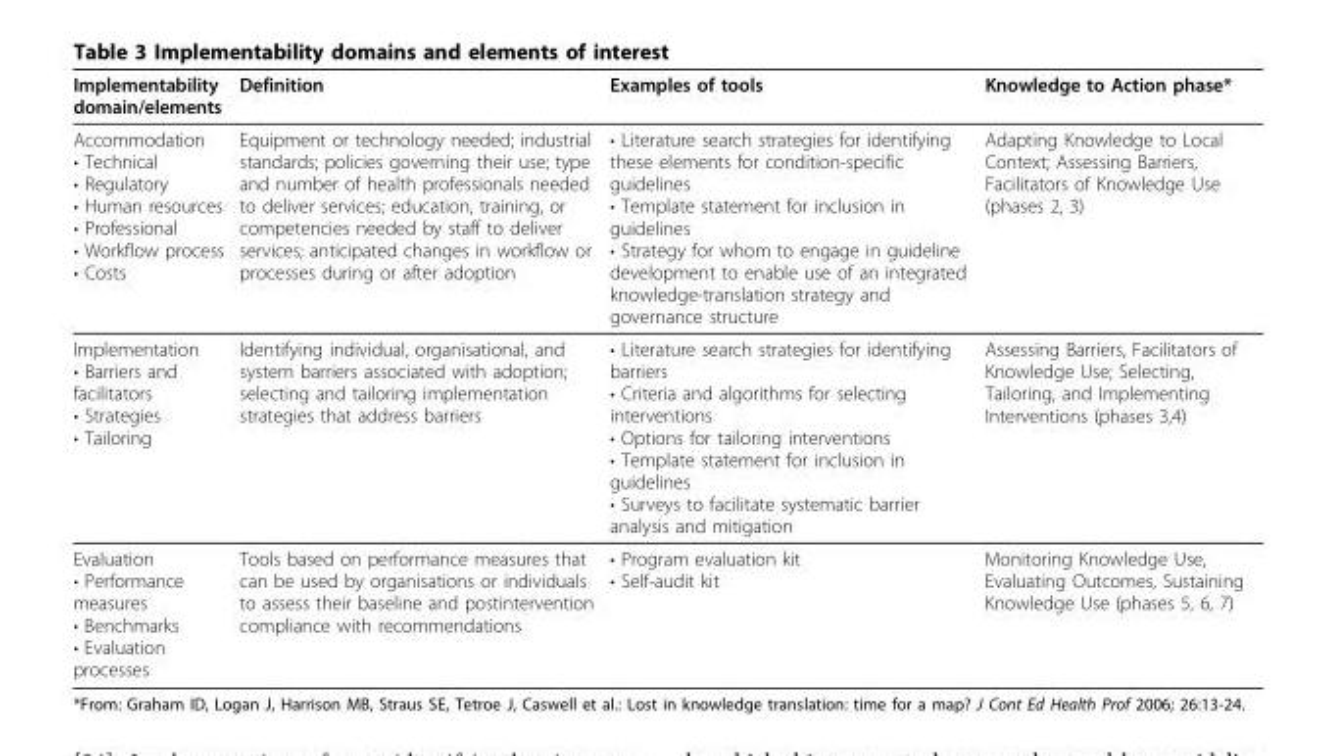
<table><thead><tr><td>Implementability domain/elements</td><td>Definition</td><td>Examples of tools</td><td>Knowledge to Action phase*</td></tr></thead><tbody><tr><td>Accommodation • Technical • Regulatory • Human resources • Professional • Workflow process • Costs</td><td>Equipment or technology needed; industrial standards; policies governing their use; type and number of health professionals needed to deliver services; education, training, or competencies needed by staff to deliver services; anticipated changes in workflow or processes during or after adoption</td><td>• Literature search strategies for identifying these elements for condition-specific guidelines • Template statement for inclusion in guidelines • Strategy for whom to engage in guideline development to enable use of an integrated knowledge-translation strategy and governance structure</td><td>Adapting Knowledge to Local Context; Assessing Barriers, Facilitators of Knowledge Use (phases 2, 3)</td></tr><tr><td>Implementation • Barriers and facilitators • Strategies • Tailoring</td><td>Identifying individual, organisational, and system barriers associated with adoption; selecting and tailoring implementation strategies that address barriers</td><td>• Literature search strategies for identifying barriers • Criteria and algorithms for selecting interventions • Options for tailoring interventions • Template statement for inclusion in guidelines • Surveys to facilitate systematic barrier analysis and mitigation</td><td>Assessing Barriers, Facilitators of Knowledge Use; Selecting, Tailoring, and Implementing Interventions (phases 3,4)</td></tr><tr><td>Evaluation • Performance measures • Benchmarks • Evaluation processes</td><td>Tools based on performance measures that can be used by organisations or individuals to assess their baseline and postintervention compliance with recommendations</td><td>• Program evaluation kit • Self-audit kit</td><td>Monitoring Knowledge Use, Evaluating Outcomes, Sustaining Knowledge Use (phases 5, 6, 7)</td></tr></tbody></table>